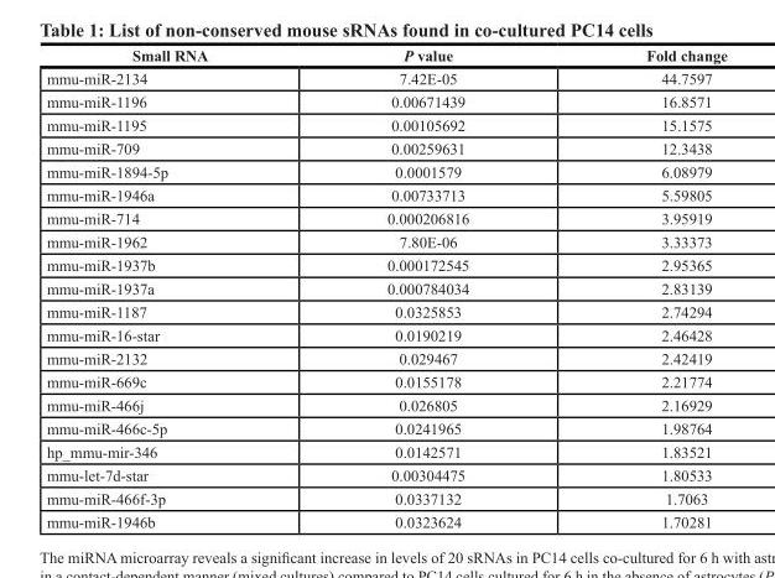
<table><thead><tr><td>Small RNA</td><td>P value</td><td>Fold change</td></tr></thead><tbody><tr><td>mmu-miR-2134</td><td>7.42E-05</td><td>44.7597</td></tr><tr><td>mmu-miR-1196</td><td>0.00671439</td><td>16.8571</td></tr><tr><td>mmu-miR-1195</td><td>0.00105692</td><td>15.1575</td></tr><tr><td>mmu-miR-709</td><td>0.00259631</td><td>12.3438</td></tr><tr><td>mmu-miR-1894-5p</td><td>0.0001579</td><td>6.08979</td></tr><tr><td>mmu-miR-1946a</td><td>0.00733713</td><td>5.59805</td></tr><tr><td>mmu-miR-714</td><td>0.000206816</td><td>3.95919</td></tr><tr><td>mmu-miR-1962</td><td>7.80E-06</td><td>3.33373</td></tr><tr><td>mmu-miR-1937b</td><td>0.000172545</td><td>2.95365</td></tr><tr><td>mmu-miR-1937a</td><td>0.000784034</td><td>2.83139</td></tr><tr><td>mmu-miR-1187</td><td>0.0325853</td><td>2.74294</td></tr><tr><td>mmu-miR-16-star</td><td>0.0190219</td><td>2.46428</td></tr><tr><td>mmu-miR-2132</td><td>0.029467</td><td>2.42419</td></tr><tr><td>mmu-miR-669c</td><td>0.0155178</td><td>2.21774</td></tr><tr><td>mmu-miR-466j</td><td>0.026805</td><td>2.16929</td></tr><tr><td>mmu-miR-466c-5p</td><td>0.0241965</td><td>1.98764</td></tr><tr><td>hp_mmu-mir-346</td><td>0.0142571</td><td>1.83521</td></tr><tr><td>mmu-let-7d-star</td><td>0.00304475</td><td>1.80533</td></tr><tr><td>mmu-miR-466f-3p</td><td>0.0337132</td><td>1.7063</td></tr><tr><td>mmu-miR-1946b</td><td>0.0323624</td><td>1.70281</td></tr></tbody></table>